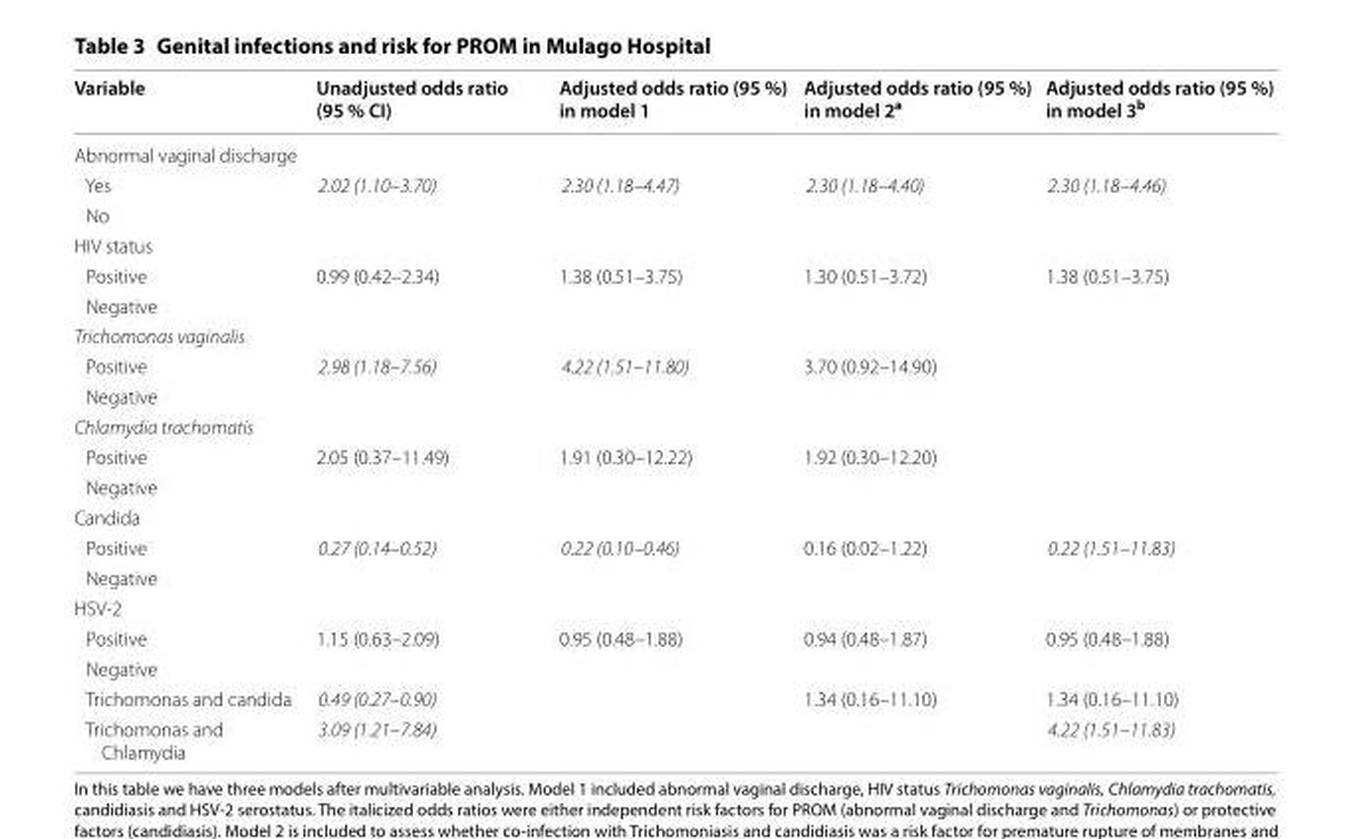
<table><thead><tr><td>Variable</td><td>Unadjusted odds ratio (95 % CI)</td><td>Adjusted odds ratio (95 %) in model 1</td><td>Adjusted odds ratio (95 %) in model 2<sup>a</sup></td><td>Adjusted odds ratio (95 %) in model 3<sup>b</sup></td></tr></thead><tbody><tr><td colspan="5">Abnormal vaginal discharge</td></tr><tr><td>Yes</td><td>2.02 (1.10–3.70)</td><td>2.30 (1.18–4.47)</td><td>2.30 (1.18–4.40)</td><td>2.30 (1.18–4.46)</td></tr><tr><td colspan="5">No</td></tr><tr><td colspan="5">HIV status</td></tr><tr><td>Positive</td><td>0.99 (0.42–2.34)</td><td>1.38 (0.51–3.75)</td><td>1.30 (0.51–3.72)</td><td>1.38 (0.51–3.75)</td></tr><tr><td colspan="5">Negative</td></tr><tr><td colspan="5">Trichomonas vaginalis</td></tr><tr><td>Positive</td><td>2.98 (1.18–7.56)</td><td>4.22 (1.51–11.80)</td><td>3.70 (0.92–14.90)</td><td></td></tr><tr><td colspan="5">Negative</td></tr><tr><td colspan="5">Chlamydia trachomatis</td></tr><tr><td>Positive</td><td>2.05 (0.37–11.49)</td><td>1.91 (0.30–12.22)</td><td>1.92 (0.30–12.20)</td><td></td></tr><tr><td colspan="5">Negative</td></tr><tr><td colspan="5">Candida</td></tr><tr><td>Positive</td><td>0.27 (0.14–0.52)</td><td>0.22 (0.10–0.46)</td><td>0.16 (0.02–1.22)</td><td>0.22 (1.51–11.83)</td></tr><tr><td colspan="5">Negative</td></tr><tr><td colspan="5">HSV-2</td></tr><tr><td>Positive</td><td>1.15 (0.63–2.09)</td><td>0.95 (0.48–1.88)</td><td>0.94 (0.48–1.87)</td><td>0.95 (0.48–1.88)</td></tr><tr><td colspan="5">Negative</td></tr><tr><td>Trichomonas and candida</td><td>0.49 (0.27–0.90)</td><td></td><td>1.34 (0.16–11.10)</td><td>1.34 (0.16–11.10)</td></tr><tr><td>Trichomonas and Chlamydia</td><td>3.09 (1.21–7.84)</td><td></td><td></td><td>4.22 (1.51–11.83)</td></tr></tbody></table>